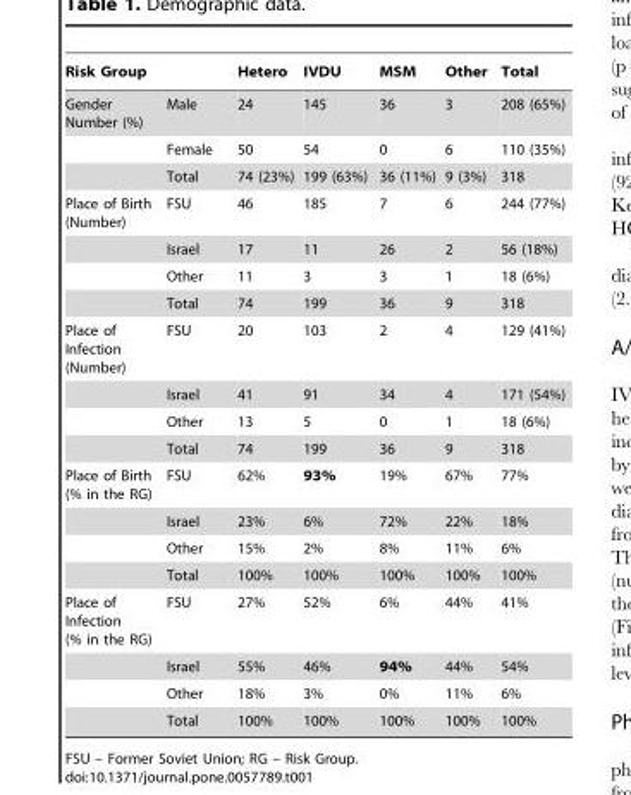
<table><thead><tr><td colspan="2">Risk Group</td><td rowspan="2">Hetero 24</td><td rowspan="2">IVDU 145</td><td rowspan="2">MSM 36</td><td rowspan="2">Other 3</td><td rowspan="2">Total 208 (65%)</td></tr><tr><td>Gender Number (%)</td><td>Male</td></tr></thead><tbody><tr><td></td><td>Female</td><td>50</td><td>54</td><td>0</td><td>6</td><td>110 (35%)</td></tr><tr><td></td><td>Total</td><td>74 (23%)</td><td>199 (63%)</td><td>36 (11%)</td><td>9 (3%)</td><td>318</td></tr><tr><td rowspan="4">Place of Birth (Number)</td><td>FSU</td><td>46</td><td>185</td><td>7</td><td>6</td><td>244 (77%)</td></tr><tr><td>Israel</td><td>17</td><td>11</td><td>26</td><td>2</td><td>56 (18%)</td></tr><tr><td>Other</td><td>11</td><td>3</td><td>3</td><td>1</td><td>18 (6%)</td></tr><tr><td>Total</td><td>74</td><td>199</td><td>36</td><td>9</td><td>318</td></tr><tr><td rowspan="4">Place of Infection (Number)</td><td>FSU</td><td>20</td><td>103</td><td>2</td><td>4</td><td>129 (41%)</td></tr><tr><td>Israel</td><td>41</td><td>91</td><td>34</td><td>4</td><td>171 (54%)</td></tr><tr><td>Other</td><td>13</td><td>5</td><td>0</td><td>1</td><td>18 (6%)</td></tr><tr><td>Total</td><td>74</td><td>199</td><td>36</td><td>9</td><td>318</td></tr><tr><td rowspan="4">Place of Birth (% in the RG)</td><td>FSU</td><td>62%</td><td>93%</td><td>19%</td><td>67%</td><td>77%</td></tr><tr><td>Israel</td><td>23%</td><td>6%</td><td>72%</td><td>22%</td><td>18%</td></tr><tr><td>Other</td><td>15%</td><td>2%</td><td>8%</td><td>11%</td><td>6%</td></tr><tr><td>Total</td><td>100%</td><td>100%</td><td>100%</td><td>100%</td><td>100%</td></tr><tr><td rowspan="4">Place of Infection (% in the RG)</td><td>FSU</td><td>27%</td><td>52%</td><td>6%</td><td>44%</td><td>41%</td></tr><tr><td>Israel</td><td>55%</td><td>46%</td><td>94%</td><td>44%</td><td>54%</td></tr><tr><td>Other</td><td>18%</td><td>3%</td><td>0%</td><td>11%</td><td>6%</td></tr><tr><td>Total</td><td>100%</td><td>100%</td><td>100%</td><td>100%</td><td>100%</td></tr></tbody></table>